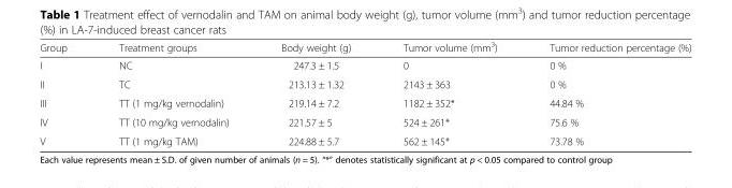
<table><thead><tr><td>Group</td><td>Treatment groups</td><td>Body weight (g)</td><td>Tumor volume (mm<sup>3</sup>)</td><td>Tumor reduction percentage (%)</td></tr></thead><tbody><tr><td>I</td><td>NC</td><td>247.3 ± 1.5</td><td>0</td><td>0 %</td></tr><tr><td>II</td><td>TC</td><td>213.13 ± 1.32</td><td>2143 ± 363</td><td>0 %</td></tr><tr><td>III</td><td>TT (1 mg/kg vernodalin)</td><td>219.14 ± 7.2</td><td>1182 ± 352*</td><td>44.84 %</td></tr><tr><td>IV</td><td>TT (10 mg/kg vernodalin)</td><td>221.57 ± 5</td><td>524 ± 261*</td><td>75.6 %</td></tr><tr><td>V</td><td>TT (1 mg/kg TAM)</td><td>224.88 ± 5.7</td><td>562 ± 145*</td><td>73.78 %</td></tr></tbody></table>